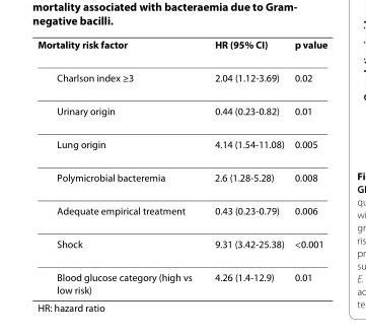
<table><thead><tr><td>Mortality risk factor</td><td>HR (95% CI)</td><td>p value</td></tr></thead><tbody><tr><td>Charlson index ≥3</td><td>2.04 (1.12-3.69)</td><td>0.02</td></tr><tr><td>Urinary origin</td><td>0.44 (0.23-0.82)</td><td>0.01</td></tr><tr><td>Lung origin</td><td>4.14 (1.54-11.08)</td><td>0.005</td></tr><tr><td>Polymicrobial bacteremia</td><td>2.6 (1.28-5.28)</td><td>0.008</td></tr><tr><td>Adequate empirical treatment</td><td>0.43 (0.23-0.79)</td><td>0.006</td></tr><tr><td>Shock</td><td>9.31 (3.42-25.38)</td><td>&lt;0.001</td></tr><tr><td>Blood glucose category (high vs low risk)</td><td>4.26 (1.4-12.9)</td><td>0.01</td></tr></tbody></table>